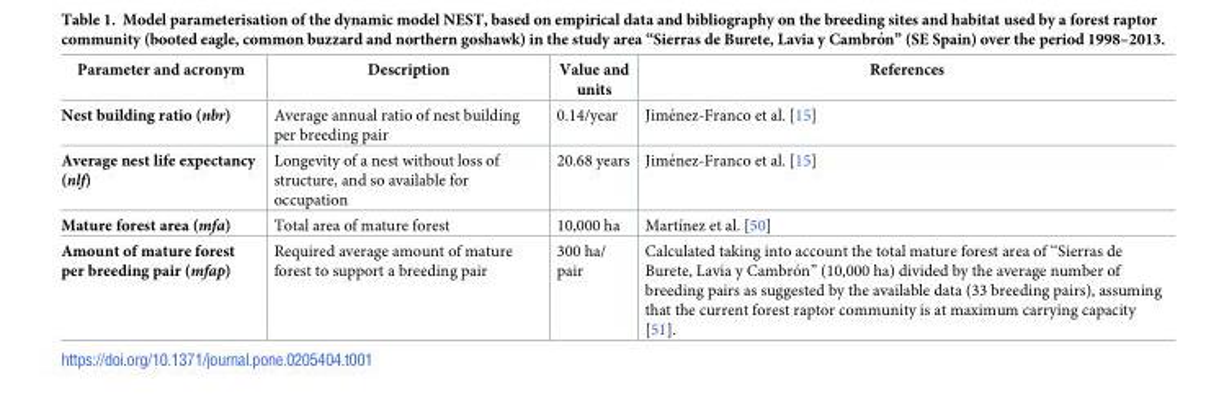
<table><thead><tr><td>Parameter and acronym</td><td>Description</td><td>Value and units</td><td>References</td></tr></thead><tbody><tr><td>Nest building ratio (nbr)</td><td>Average annual ratio of nest building per breeding pair</td><td>0.14/year</td><td>Jime´nez-Franco et al. [15]</td></tr><tr><td>Average nest life expectancy (nlf)</td><td>Longevity of a nest without loss of structure, and so available for occupation</td><td>20.68 years</td><td>Jime´nez-Franco et al. [15]</td></tr><tr><td>Mature forest area (mfa)</td><td>Total area of mature forest</td><td>10,000 ha</td><td>Martı´nez et al. [50]</td></tr><tr><td>Amount of mature forest per breeding pair (mfap)</td><td>Required average amount of mature forest to support a breeding pair</td><td>300 ha/ pair</td><td>Calculated taking into account the total mature forest area of ‘‘Sierras de Burete, Lavia y Cambro´n” (10,000 ha) divided by the average number of breeding pairs as suggested by the available data (33 breeding pairs), assuming that the current forest raptor community is at maximum carrying capacity [51].</td></tr></tbody></table>